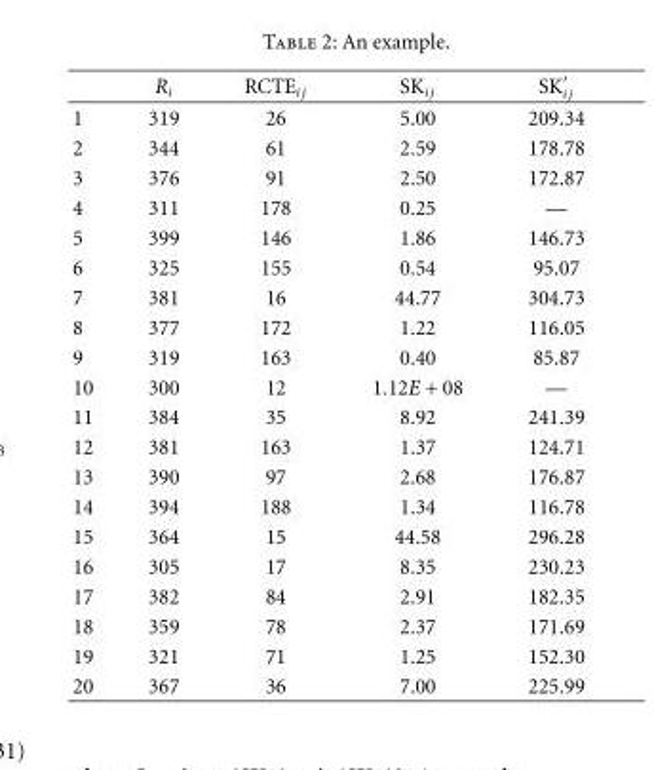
<table><thead><tr><td></td><td>R<sub>i</sub></td><td>RCTE<sub>ij</sub></td><td>SK<sub>ij</sub></td><td>SK′ ij</td></tr></thead><tbody><tr><td>1</td><td>319</td><td>26</td><td>5.00</td><td>209.34</td></tr><tr><td>2</td><td>344</td><td>61</td><td>2.59</td><td>178.78</td></tr><tr><td>3</td><td>376</td><td>91</td><td>2.50</td><td>172.87</td></tr><tr><td>4</td><td>311</td><td>178</td><td>0.25</td><td>—</td></tr><tr><td>5</td><td>399</td><td>146</td><td>1.86</td><td>146.73</td></tr><tr><td>6</td><td>325</td><td>155</td><td>0.54</td><td>95.07</td></tr><tr><td>7</td><td>381</td><td>16</td><td>44.77</td><td>304.73</td></tr><tr><td>8</td><td>377</td><td>172</td><td>1.22</td><td>116.05</td></tr><tr><td>9</td><td>319</td><td>163</td><td>0.40</td><td>85.87</td></tr><tr><td>10</td><td>300</td><td>12</td><td>1.12E + 08</td><td>—</td></tr><tr><td>11</td><td>384</td><td>35</td><td>8.92</td><td>241.39</td></tr><tr><td>12</td><td>381</td><td>163</td><td>1.37</td><td>124.71</td></tr><tr><td>13</td><td>390</td><td>97</td><td>2.68</td><td>176.87</td></tr><tr><td>14</td><td>394</td><td>188</td><td>1.34</td><td>116.78</td></tr><tr><td>15</td><td>364</td><td>15</td><td>44.58</td><td>296.28</td></tr><tr><td>16</td><td>305</td><td>17</td><td>8.35</td><td>230.23</td></tr><tr><td>17</td><td>382</td><td>84</td><td>2.91</td><td>182.35</td></tr><tr><td>18</td><td>359</td><td>78</td><td>2.37</td><td>171.69</td></tr><tr><td>19</td><td>321</td><td>71</td><td>1.25</td><td>152.30</td></tr><tr><td>20</td><td>367</td><td>36</td><td>7.00</td><td>225.99</td></tr></tbody></table>